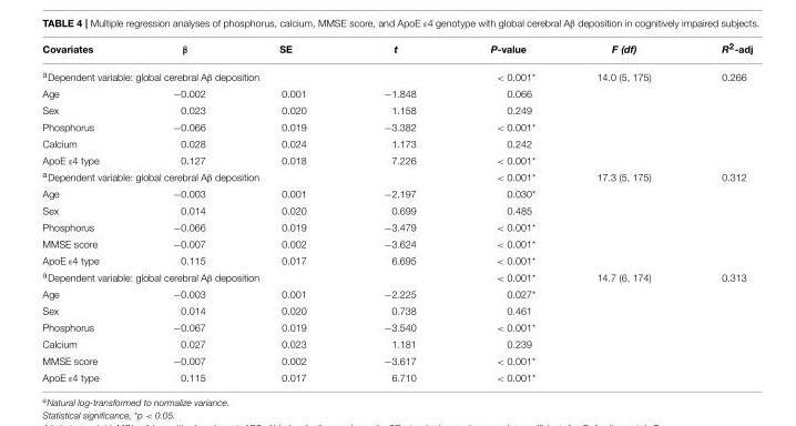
<table><thead><tr><td>Covariates</td><td>β</td><td>SE</td><td>t</td><td>P-value</td><td>F (df)</td><td>R<sup>2</sup>-adj</td></tr></thead><tbody><tr><td colspan="4"><sup>a</sup>Dependent variable: global cerebral Aβ deposition</td><td>&lt; 0.001*</td><td>14.0 (5, 175)</td><td>0.266</td></tr><tr><td>Age</td><td>−0.002</td><td>0.001</td><td>−1.848</td><td>0.066</td><td></td><td></td></tr><tr><td>Sex</td><td>0.023</td><td>0.020</td><td>1.158</td><td>0.249</td><td></td><td></td></tr><tr><td>Phosphorus</td><td>−0.066</td><td>0.019</td><td>−3.382</td><td>&lt; 0.001*</td><td></td><td></td></tr><tr><td>Calcium</td><td>0.028</td><td>0.024</td><td>1.173</td><td>0.242</td><td></td><td></td></tr><tr><td>ApoE ε4 type</td><td>0.127</td><td>0.018</td><td>7.226</td><td>&lt; 0.001*</td><td></td><td></td></tr><tr><td colspan="4"><sup>a</sup>Dependent variable: global cerebral Aβ deposition</td><td>&lt; 0.001*</td><td>17.3 (5, 175)</td><td>0.312</td></tr><tr><td>Age</td><td>−0.003</td><td>0.001</td><td>−2.197</td><td>0.030*</td><td></td><td></td></tr><tr><td>Sex</td><td>0.014</td><td>0.020</td><td>0.699</td><td>0.485</td><td></td><td></td></tr><tr><td>Phosphorus</td><td>−0.066</td><td>0.019</td><td>−3.479</td><td>&lt; 0.001*</td><td></td><td></td></tr><tr><td>MMSE score</td><td>−0.007</td><td>0.002</td><td>−3.624</td><td>&lt; 0.001*</td><td></td><td></td></tr><tr><td>ApoE ε4 type</td><td>0.115</td><td>0.017</td><td>6.695</td><td>&lt; 0.001*</td><td></td><td></td></tr><tr><td colspan="4"><sup>a</sup>Dependent variable: global cerebral Aβ deposition</td><td>&lt; 0.001*</td><td>14.7 (6, 174)</td><td>0.313</td></tr><tr><td>Age</td><td>−0.003</td><td>0.001</td><td>−2.225</td><td>0.027*</td><td></td><td></td></tr><tr><td>Sex</td><td>0.014</td><td>0.020</td><td>0.738</td><td>0.461</td><td></td><td></td></tr><tr><td>Phosphorus</td><td>−0.067</td><td>0.019</td><td>−3.540</td><td>&lt; 0.001*</td><td></td><td></td></tr><tr><td>Calcium</td><td>0.027</td><td>0.023</td><td>1.181</td><td>0.239</td><td></td><td></td></tr><tr><td>MMSE score</td><td>−0.007</td><td>0.002</td><td>−3.617</td><td>&lt; 0.001*</td><td></td><td></td></tr><tr><td>ApoE ε4 type</td><td>0.115</td><td>0.017</td><td>6.710</td><td>&lt; 0.001*</td><td></td><td></td></tr></tbody></table>